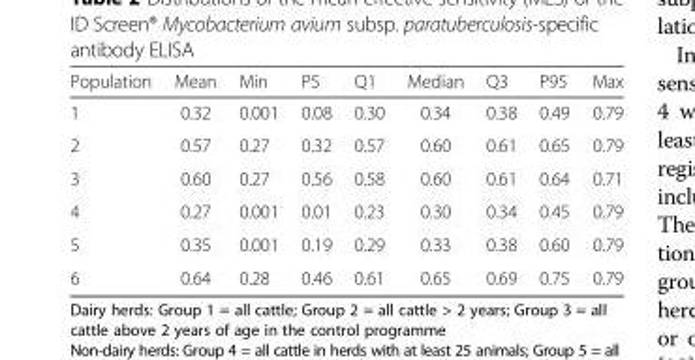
<table><thead><tr><td>Population</td><td>Mean</td><td>Min</td><td>P5</td><td>Q1</td><td>Median</td><td>Q3</td><td>P95</td><td>Max</td></tr></thead><tbody><tr><td>1</td><td>0.32</td><td>0.001</td><td>0.08</td><td>0.30</td><td>0.34</td><td>0.38</td><td>0.49</td><td>0.79</td></tr><tr><td>2</td><td>0.57</td><td>0.27</td><td>0.32</td><td>0.57</td><td>0.60</td><td>0.61</td><td>0.65</td><td>0.79</td></tr><tr><td>3</td><td>0.60</td><td>0.27</td><td>0.56</td><td>0.58</td><td>0.60</td><td>0.61</td><td>0.64</td><td>0.71</td></tr><tr><td>4</td><td>0.27</td><td>0.001</td><td>0.01</td><td>0.23</td><td>0.30</td><td>0.34</td><td>0.45</td><td>0.79</td></tr><tr><td>5</td><td>0.35</td><td>0.001</td><td>0.19</td><td>0.29</td><td>0.33</td><td>0.38</td><td>0.60</td><td>0.79</td></tr><tr><td>6</td><td>0.64</td><td>0.28</td><td>0.46</td><td>0.61</td><td>0.65</td><td>0.69</td><td>0.75</td><td>0.79</td></tr></tbody></table>